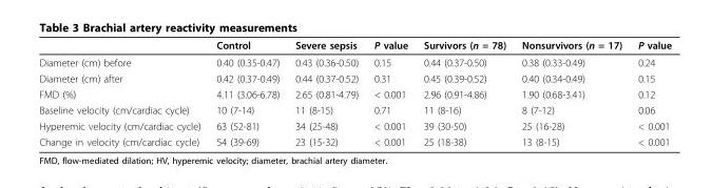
<table><thead><tr><td></td><td>Control</td><td>Severe sepsis</td><td>P value</td><td>Survivors (n = 78)</td><td>Nonsurvivors (n = 17)</td><td>P value</td></tr></thead><tbody><tr><td>Diameter (cm) before</td><td>0.40 (0.35-0.47)</td><td>0.43 (0.36-0.50)</td><td>0.15</td><td>0.44 (0.37-0.50)</td><td>0.38 (0.33-0.49)</td><td>0.24</td></tr><tr><td>Diameter (cm) after</td><td>0.42 (0.37-0.49)</td><td>0.44 (0.37-0.52)</td><td>0.31</td><td>0.45 (0.39-0.52)</td><td>0.40 (0.34-0.49)</td><td>0.15</td></tr><tr><td>FMD (%)</td><td>4.11 (3.06-6.78)</td><td>2.65 (0.81-4.79)</td><td>&lt; 0.001</td><td>2.96 (0.91-4.86)</td><td>1.90 (0.68-3.41)</td><td>0.12</td></tr><tr><td>Baseline velocity (cm/cardiac cycle)</td><td>10 (7-14)</td><td>11 (8-15)</td><td>0.71</td><td>11 (8-16)</td><td>8 (7-12)</td><td>0.06</td></tr><tr><td>Hyperemic velocity (cm/cardiac cycle)</td><td>63 (52-81)</td><td>34 (25-48)</td><td>&lt; 0.001</td><td>39 (30-50)</td><td>25 (16-28)</td><td>&lt; 0.001</td></tr><tr><td>Change in velocity (cm/cardiac cycle)</td><td>54 (39-69)</td><td>23 (15-32)</td><td>&lt; 0.001</td><td>25 (18-38)</td><td>13 (8-15)</td><td>&lt; 0.001</td></tr></tbody></table>